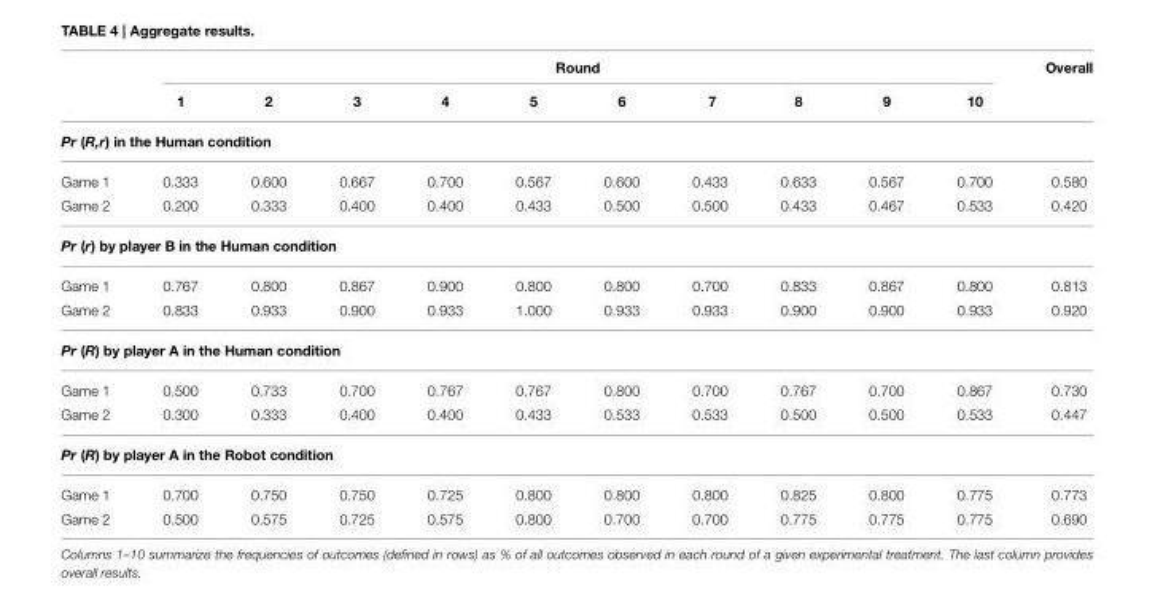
<table><thead><tr><td rowspan="2"></td><td colspan="10">Round</td><td rowspan="2">Overall</td></tr><tr><td>1</td><td>2</td><td>3</td><td>4</td><td>5</td><td>6</td><td>7</td><td>8</td><td>9</td><td>10</td></tr></thead><tbody><tr><td colspan="12">Pr (R,r) in the Human condition</td></tr><tr><td>Game 1</td><td>0.333</td><td>0.600</td><td>0.667</td><td>0.700</td><td>0.567</td><td>0.600</td><td>0.433</td><td>0.633</td><td>0.567</td><td>0.700</td><td>0.580</td></tr><tr><td>Game 2</td><td>0.200</td><td>0.333</td><td>0.400</td><td>0.400</td><td>0.433</td><td>0.500</td><td>0.500</td><td>0.433</td><td>0.467</td><td>0.533</td><td>0.420</td></tr><tr><td colspan="12">Pr (r) by player B in the Human condition</td></tr><tr><td>Game 1</td><td>0.767</td><td>0.800</td><td>0.867</td><td>0.900</td><td>0.800</td><td>0.800</td><td>0.700</td><td>0.833</td><td>0.867</td><td>0.800</td><td>0.813</td></tr><tr><td>Game 2</td><td>0.833</td><td>0.933</td><td>0.900</td><td>0.933</td><td>1.000</td><td>0.933</td><td>0.933</td><td>0.900</td><td>0.900</td><td>0.933</td><td>0.920</td></tr><tr><td colspan="12">Pr (R) by player A in the Human condition</td></tr><tr><td>Game 1</td><td>0.500</td><td>0.733</td><td>0.700</td><td>0.767</td><td>0.767</td><td>0.800</td><td>0.700</td><td>0.767</td><td>0.700</td><td>0.867</td><td>0.730</td></tr><tr><td>Game 2</td><td>0.300</td><td>0.333</td><td>0.400</td><td>0.400</td><td>0.433</td><td>0.533</td><td>0.533</td><td>0.500</td><td>0.500</td><td>0.533</td><td>0.447</td></tr><tr><td colspan="12">Pr (R) by player A in the Robot condition</td></tr><tr><td>Game 1</td><td>0.700</td><td>0.750</td><td>0.750</td><td>0.725</td><td>0.800</td><td>0.800</td><td>0.800</td><td>0.825</td><td>0.800</td><td>0.775</td><td>0.773</td></tr><tr><td>Game 2</td><td>0.500</td><td>0.575</td><td>0.725</td><td>0.575</td><td>0.800</td><td>0.700</td><td>0.700</td><td>0.775</td><td>0.775</td><td>0.775</td><td>0.690</td></tr></tbody></table>